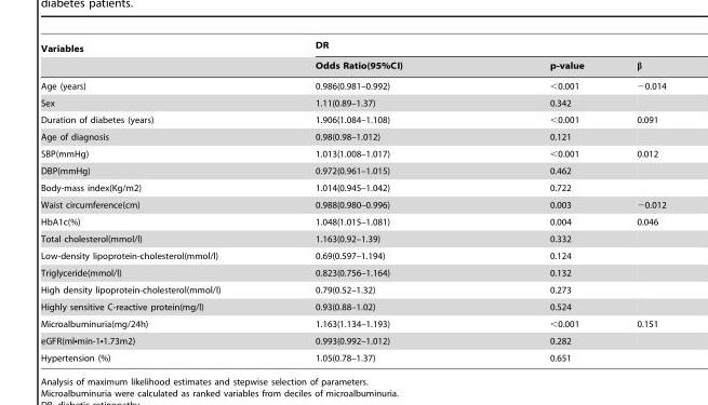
<table><thead><tr><td rowspan="2">Variables</td><td colspan="3">DR</td></tr><tr><td>Odds Ratio(95%CI)</td><td>p-value</td><td>β</td></tr></thead><tbody><tr><td>Age (years)</td><td>0.986(0.981–0.992)</td><td>&lt;0.001</td><td>−0.014</td></tr><tr><td>Sex</td><td>1.11(0.89–1.37)</td><td>0.342</td><td></td></tr><tr><td>Duration of diabetes (years)</td><td>1.906(1.084–1.108)</td><td>&lt;0.001</td><td>0.091</td></tr><tr><td>Age of diagnosis</td><td>0.98(0.98–1.012)</td><td>0.121</td><td></td></tr><tr><td>SBP(mmHg)</td><td>1.013(1.008–1.017)</td><td>&lt;0.001</td><td>0.012</td></tr><tr><td>DBP(mmHg)</td><td>0.972(0.961–1.015)</td><td>0.462</td><td></td></tr><tr><td>Body-mass index(Kg/m2)</td><td>1.014(0.945–1.042)</td><td>0.722</td><td></td></tr><tr><td>Waist circumference(cm)</td><td>0.988(0.980–0.996)</td><td>0.003</td><td>−0.012</td></tr><tr><td>HbA1c(%)</td><td>1.048(1.015–1.081)</td><td>0.004</td><td>0.046</td></tr><tr><td>Total cholesterol(mmol/l)</td><td>1.163(0.92–1.39)</td><td>0.332</td><td></td></tr><tr><td>Low-density lipoprotein-cholesterol(mmol/l)</td><td>0.69(0.597–1.194)</td><td>0.124</td><td></td></tr><tr><td>Triglyceride(mmol/l)</td><td>0.823(0.756–1.164)</td><td>0.132</td><td></td></tr><tr><td>High density lipoprotein-cholesterol(mmol/l)</td><td>0.79(0.52–1.32)</td><td>0.273</td><td></td></tr><tr><td>Highly sensitive C-reactive protein(mg/l)</td><td>0.93(0.88–1.02)</td><td>0.524</td><td></td></tr><tr><td>Microalbuminuria(mg/24h)</td><td>1.163(1.134–1.193)</td><td>&lt;0.001</td><td>0.151</td></tr><tr><td>eGFR(ml•min-1•1.73m2)</td><td>0.993(0.992–1.012)</td><td>0.282</td><td></td></tr><tr><td>Hypertension (%)</td><td>1.05(0.78–1.37)</td><td>0.651</td><td></td></tr></tbody></table>